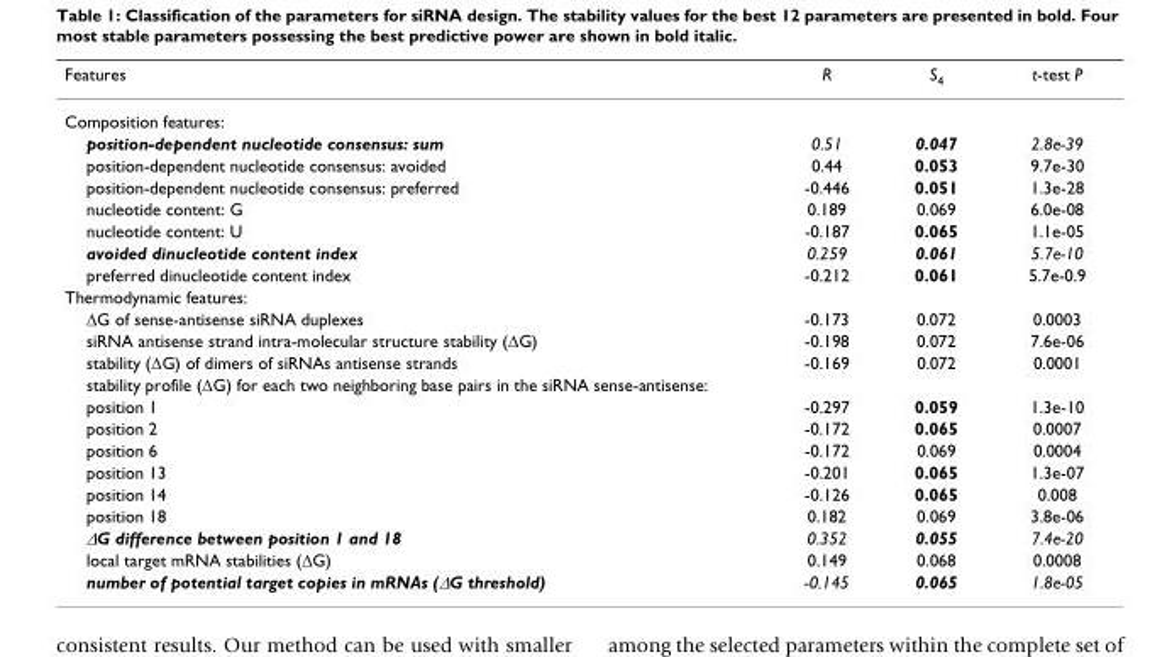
<table><thead><tr><td>Features</td><td>R</td><td>S<sub>4</sub></td><td>t-test P</td></tr></thead><tbody><tr><td colspan="4">Composition features:</td></tr><tr><td>position-dependent nucleotide consensus: sum</td><td>0.51</td><td>0.047</td><td>2.8e-39</td></tr><tr><td>position-dependent nucleotide consensus: avoided</td><td>0.44</td><td>0.053</td><td>9.7e-30</td></tr><tr><td>position-dependent nucleotide consensus: preferred</td><td>-0.446</td><td>0.051</td><td>1.3e-28</td></tr><tr><td>nucleotide content: G</td><td>0.189</td><td>0.069</td><td>6.0e-08</td></tr><tr><td>nucleotide content: U</td><td>-0.187</td><td>0.065</td><td>1.1e-05</td></tr><tr><td>avoided dinucleotide content index</td><td>0.259</td><td>0.061</td><td>5.7e-10</td></tr><tr><td>preferred dinucleotide content index</td><td>-0.212</td><td>0.061</td><td>5.7e-0.9</td></tr><tr><td colspan="4">Thermodynamic features:</td></tr><tr><td>∆G of sense-antisense siRNA duplexes</td><td>-0.173</td><td>0.072</td><td>0.0003</td></tr><tr><td>siRNA antisense strand intra-molecular structure stability (∆G)</td><td>-0.198</td><td>0.072</td><td>7.6e-06</td></tr><tr><td>stability (∆G) of dimers of siRNAs antisense strands</td><td>-0.169</td><td>0.072</td><td>0.0001</td></tr><tr><td colspan="4">stability profile (∆G) for each two neighboring base pairs in the siRNA sense-antisense:</td></tr><tr><td>position 1</td><td>-0.297</td><td>0.059</td><td>1.3e-10</td></tr><tr><td>position 2</td><td>-0.172</td><td>0.065</td><td>0.0007</td></tr><tr><td>position 6</td><td>-0.172</td><td>0.069</td><td>0.0004</td></tr><tr><td>position 13</td><td>-0.201</td><td>0.065</td><td>1.3e-07</td></tr><tr><td>position 14</td><td>-0.126</td><td>0.065</td><td>0.008</td></tr><tr><td>position 18</td><td>0.182</td><td>0.069</td><td>3.8e-06</td></tr><tr><td>∆G difference between position 1 and 18</td><td>0.352</td><td>0.055</td><td>7.4e-20</td></tr><tr><td>local target mRNA stabilities (∆G)</td><td>0.149</td><td>0.068</td><td>0.0008</td></tr><tr><td>number of potential target copies in mRNAs (∆G threshold)</td><td>-0.145</td><td>0.065</td><td>1.8e-05</td></tr></tbody></table>